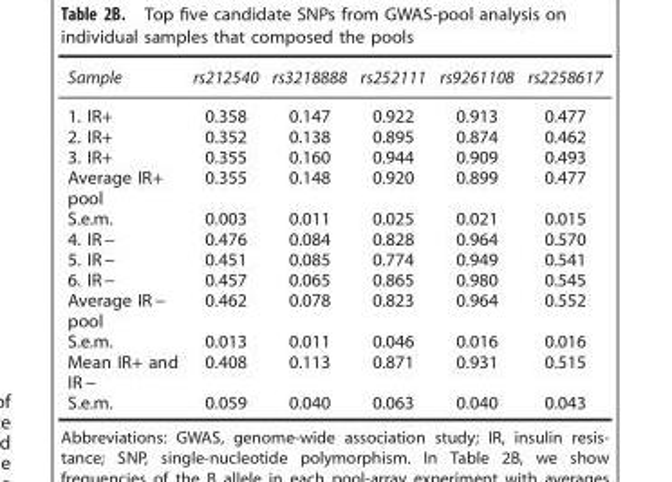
<table><thead><tr><td>Sample</td><td>rs212540</td><td>rs3218888</td><td>rs252111</td><td>rs9261108</td><td>rs2258617</td></tr></thead><tbody><tr><td>1. IR+</td><td>0.358</td><td>0.147</td><td>0.922</td><td>0.913</td><td>0.477</td></tr><tr><td>2. IR+</td><td>0.352</td><td>0.138</td><td>0.895</td><td>0.874</td><td>0.462</td></tr><tr><td>3. IR+</td><td>0.355</td><td>0.160</td><td>0.944</td><td>0.909</td><td>0.493</td></tr><tr><td>Average IR+ pool</td><td>0.355</td><td>0.148</td><td>0.920</td><td>0.899</td><td>0.477</td></tr><tr><td>S.e.m.</td><td>0.003</td><td>0.011</td><td>0.025</td><td>0.021</td><td>0.015</td></tr><tr><td>4. IR −</td><td>0.476</td><td>0.084</td><td>0.828</td><td>0.964</td><td>0.570</td></tr><tr><td>5. IR −</td><td>0.451</td><td>0.085</td><td>0.774</td><td>0.949</td><td>0.541</td></tr><tr><td>6. IR −</td><td>0.457</td><td>0.065</td><td>0.865</td><td>0.980</td><td>0.545</td></tr><tr><td>Average IR − pool</td><td>0.462</td><td>0.078</td><td>0.823</td><td>0.964</td><td>0.552</td></tr><tr><td>S.e.m.</td><td>0.013</td><td>0.011</td><td>0.046</td><td>0.016</td><td>0.016</td></tr><tr><td>Mean IR+ and IR −</td><td>0.408</td><td>0.113</td><td>0.871</td><td>0.931</td><td>0.515</td></tr><tr><td>S.e.m.</td><td>0.059</td><td>0.040</td><td>0.063</td><td>0.040</td><td>0.043</td></tr></tbody></table>